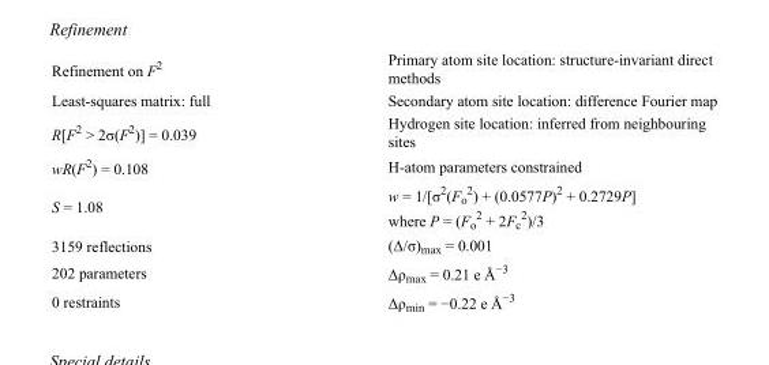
<table><tbody><tr><td>Refinement on F<sup>2</sup></td><td>Primary atom site location: structure-invariant direct methods</td></tr><tr><td>Least-squares matrix: full</td><td>Secondary atom site location: difference Fourier map</td></tr><tr><td>R[F<sup>2</sup> &gt; 2σ(F<sup>2</sup>)] = 0.039</td><td>Hydrogen site location: inferred from neighbouring sites</td></tr><tr><td>wR(F<sup>2</sup>) = 0.108</td><td>H-atom parameters constrained</td></tr><tr><td>S = 1.08</td><td>w = 1/[σ<sup>2</sup>(F<sub>o</sub> <sup>2</sup>) + (0.0577P)<sup>2</sup> + 0.2729P] where P = (F<sub>o</sub> <sup>2</sup> + 2F<sub>c</sub> <sup>2</sup>)/3</td></tr><tr><td>3159 reflections</td><td>(Δ/σ)<sub>max</sub> = 0.001</td></tr><tr><td>202 parameters</td><td>Δρ<sub>max</sub> = 0.21 e Å<sup>−3</sup></td></tr><tr><td>0 restraints</td><td>Δρ<sub>min</sub> = −0.22 e Å<sup>−3</sup></td></tr></tbody></table>